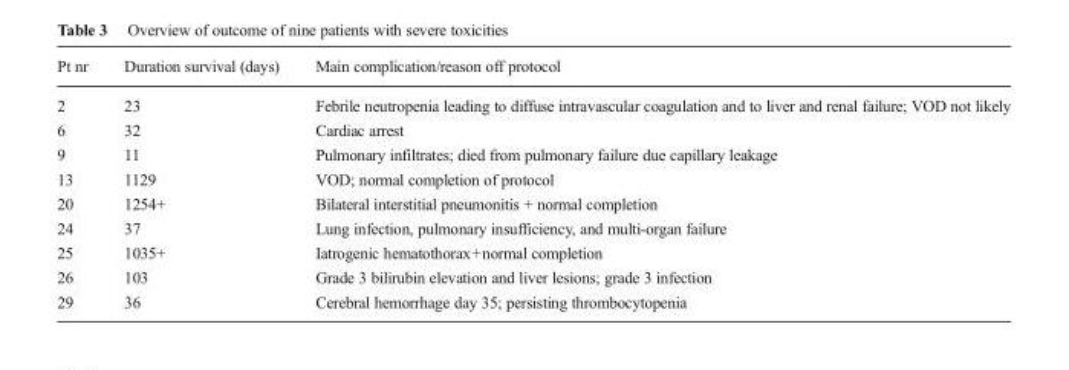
<table><thead><tr><td>Pt nr</td><td>Duration survival (days)</td><td>Main complication/reason off protocol</td></tr></thead><tbody><tr><td>2</td><td>23</td><td>Febrile neutropenia leading to diffuse intravascular coagulation and to liver and renal failure; VOD not likely</td></tr><tr><td>6</td><td>32</td><td>Cardiac arrest</td></tr><tr><td>9</td><td>11</td><td>Pulmonary infiltrates; died from pulmonary failure due capillary leakage</td></tr><tr><td>13</td><td>1129</td><td>VOD; normal completion of protocol</td></tr><tr><td>20</td><td>1254+</td><td>Bilateral interstitial pneumonitis + normal completion</td></tr><tr><td>24</td><td>37</td><td>Lung infection, pulmonary insufficiency, and multi-organ failure</td></tr><tr><td>25</td><td>1035+</td><td>Iatrogenic hematothorax+normal completion</td></tr><tr><td>26</td><td>103</td><td>Grade 3 bilirubin elevation and liver lesions; grade 3 infection</td></tr><tr><td>29</td><td>36</td><td>Cerebral hemorrhage day 35; persisting thrombocytopenia</td></tr></tbody></table>